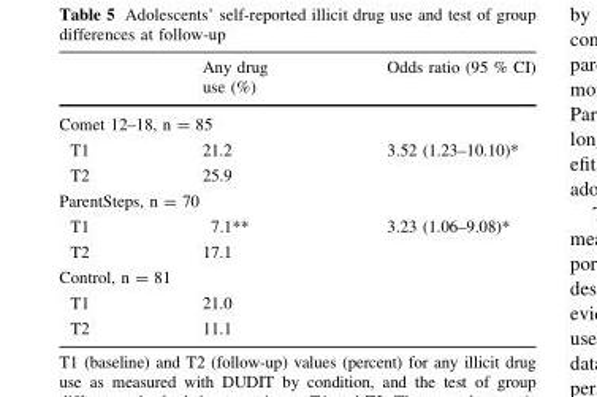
<table><thead><tr><td></td><td>Any drug use (%)</td><td>Odds ratio (95 % CI)</td></tr></thead><tbody><tr><td colspan="3">Comet 12–18, n = 85</td></tr><tr><td>T1</td><td>21.2</td><td>3.52 (1.23–10.10)*</td></tr><tr><td>T2</td><td>25.9</td><td></td></tr><tr><td colspan="3">ParentSteps, n = 70</td></tr><tr><td>T1</td><td>7.1**</td><td>3.23 (1.06–9.08)*</td></tr><tr><td>T2</td><td>17.1</td><td></td></tr><tr><td colspan="3">Control, n = 81</td></tr><tr><td>T1</td><td>21.0</td><td></td></tr><tr><td>T2</td><td>11.1</td><td></td></tr></tbody></table>